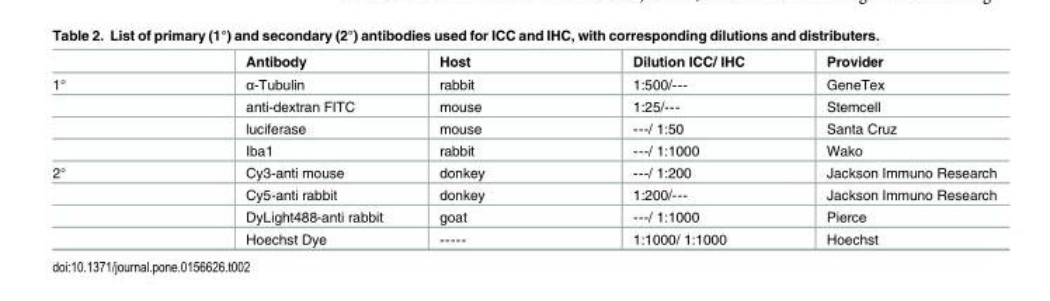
<table><thead><tr><td></td><td>Antibody</td><td>Host</td><td>Dilution ICC/ IHC</td><td>Provider</td></tr></thead><tbody><tr><td rowspan="4">1°</td><td>α-Tubulin</td><td>rabbit</td><td>1:500/---</td><td>GeneTex</td></tr><tr><td>anti-dextran FITC</td><td>mouse</td><td>1:25/---</td><td>Stemcell</td></tr><tr><td>luciferase</td><td>mouse</td><td>---/ 1:50</td><td>Santa Cruz</td></tr><tr><td>Iba1</td><td>rabbit</td><td>---/ 1:1000</td><td>Wako</td></tr><tr><td rowspan="4">2°</td><td>Cy3-anti mouse</td><td>donkey</td><td>---/ 1:200</td><td>Jackson Immuno Research</td></tr><tr><td>Cy5-anti rabbit</td><td>donkey</td><td>1:200/---</td><td>Jackson Immuno Research</td></tr><tr><td>DyLight488-anti rabbit</td><td>goat</td><td>---/ 1:1000</td><td>Pierce</td></tr><tr><td>Hoechst Dye</td><td>-----</td><td>1:1000/ 1:1000</td><td>Hoechst</td></tr></tbody></table>